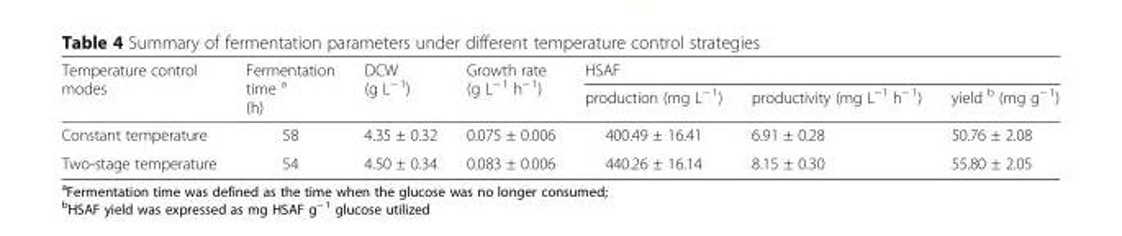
<table><thead><tr><td rowspan="2">Temperature control modes</td><td rowspan="2">Fermentation time <sup>a</sup> (h)</td><td rowspan="2">DCW (g L<sup>− 1</sup>)</td><td rowspan="2">Growth rate (g L<sup>− 1</sup> h<sup>− 1</sup>)</td><td colspan="3">HSAF</td></tr><tr><td>production (mg L<sup>− 1</sup>)</td><td>productivity (mg L<sup>−1</sup> h<sup>− 1</sup>)</td><td>yield <sup>b</sup> (mg g<sup>− 1</sup>)</td></tr></thead><tbody><tr><td>Constant temperature</td><td>58</td><td>4.35 ± 0.32</td><td>0.075 ± 0.006</td><td>400.49 ± 16.41</td><td>6.91 ± 0.28</td><td>50.76 ± 2.08</td></tr><tr><td>Two-stage temperature</td><td>54</td><td>4.50 ± 0.34</td><td>0.083 ± 0.006</td><td>440.26 ± 16.14</td><td>8.15 ± 0.30</td><td>55.80 ± 2.05</td></tr></tbody></table>